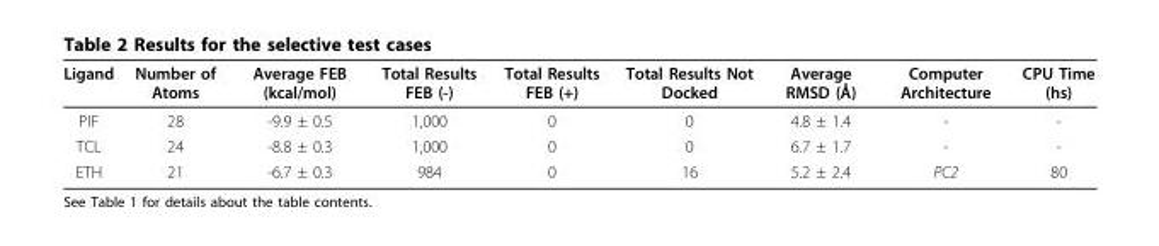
<table><thead><tr><td>Ligand</td><td>Number of Atoms</td><td>Average FEB (kcal/mol)</td><td>Total Results FEB (-)</td><td>Total Results FEB (+)</td><td>Total Results Not Docked</td><td>Average RMSD (Å)</td><td>Computer Architecture</td><td>CPU Time (hs)</td></tr></thead><tbody><tr><td>PIF</td><td>28</td><td>-9.9 ± 0.5</td><td>1,000</td><td>0</td><td>0</td><td>4.8 ± 1.4</td><td>-</td><td>-</td></tr><tr><td>TCL</td><td>24</td><td>-8.8 ± 0.3</td><td>1,000</td><td>0</td><td>0</td><td>6.7 ± 1.7</td><td>-</td><td>-</td></tr><tr><td>ETH</td><td>21</td><td>-6.7 ± 0.3</td><td>984</td><td>0</td><td>16</td><td>5.2 ± 2.4</td><td>PC2</td><td>80</td></tr></tbody></table>